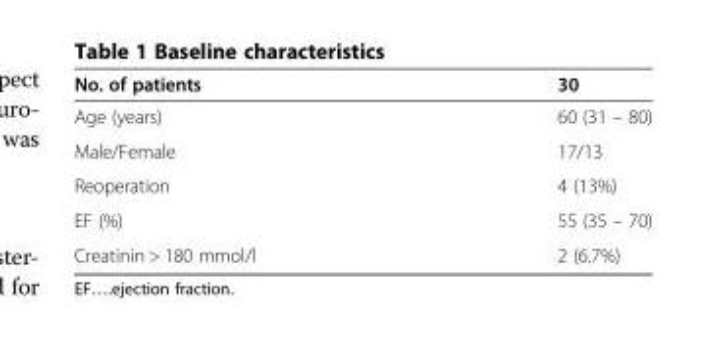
<table><thead><tr><td>No. of patients</td><td>30</td></tr></thead><tbody><tr><td>Age (years)</td><td>60 (31 – 80)</td></tr><tr><td>Male/Female</td><td>17/13</td></tr><tr><td>Reoperation</td><td>4 (13%)</td></tr><tr><td>EF (%)</td><td>55 (35 – 70)</td></tr><tr><td>Creatinin &gt; 180 mmol/l</td><td>2 (6.7%)</td></tr></tbody></table>